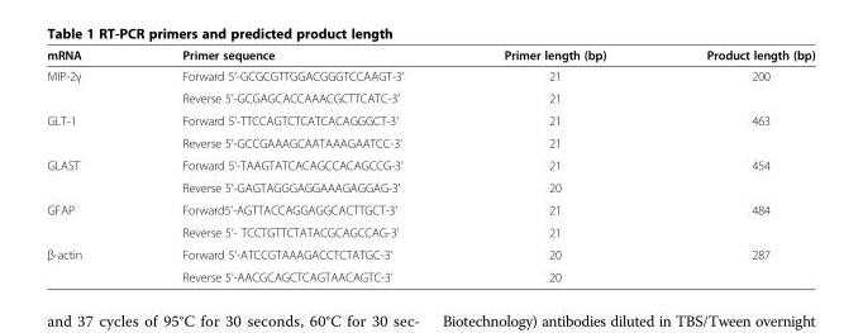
<table><thead><tr><td>mRNA</td><td>Primer sequence</td><td>Primer length (bp)</td><td>Product length (bp)</td></tr></thead><tbody><tr><td rowspan="2">MIP-2γ</td><td>Forward 5&#x27;-GCGCGTTGGACGGGTCCAAGT-3&#x27;</td><td>21</td><td>200</td></tr><tr><td>Reverse 5&#x27;-GCGAGCACCAAACGCTTCATC-3&#x27;</td><td>21</td><td></td></tr><tr><td rowspan="2">GLT-1</td><td>Forward 5&#x27;-TTCCAGTCTCATCACAGGGCT-3&#x27;</td><td>21</td><td>463</td></tr><tr><td>Reverse 5&#x27;-GCCGAAAGCAATAAAGAATCC-3&#x27;</td><td>21</td><td></td></tr><tr><td rowspan="2">GLAST</td><td>Forward 5&#x27;-TAAGTATCACAGCCACAGCCG-3&#x27;</td><td>21</td><td>454</td></tr><tr><td>Reverse 5&#x27;-GAGTAGGGAGGAAAGAGGAG-3&#x27;</td><td>20</td><td></td></tr><tr><td rowspan="2">GFAP</td><td>Forward5&#x27;-AGTTACCAGGAGGCACTTGCT-3&#x27;</td><td>21</td><td>484</td></tr><tr><td>Reverse 5&#x27;- TCCTGTTCTATACGCAGCCAG-3&#x27;</td><td>21</td><td></td></tr><tr><td rowspan="2">β-actin</td><td>Forward 5&#x27;-ATCCGTAAAGACCTCTATGC-3&#x27;</td><td>20</td><td>287</td></tr><tr><td>Reverse 5&#x27;-AACGCAGCTCAGTAACAGTC-3&#x27;</td><td>20</td><td></td></tr></tbody></table>